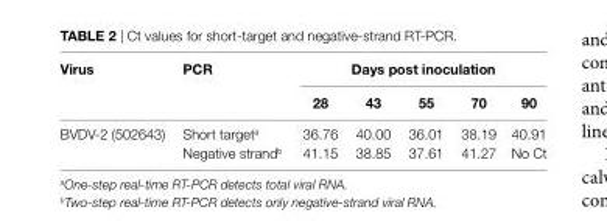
<table><thead><tr><td rowspan="2">Virus</td><td rowspan="2">Pcr</td><td colspan="5">Days post inoculation</td></tr><tr><td>28</td><td>43</td><td>55</td><td>70</td><td>90</td></tr></thead><tbody><tr><td rowspan="2">BVDV-2 (502643)</td><td>Short target<sup>a</sup></td><td>36.76</td><td>40.00</td><td>36.01</td><td>38.19</td><td>40.91</td></tr><tr><td>Negative strand<sup>b</sup></td><td>41.15</td><td>38.85</td><td>37.61</td><td>41.27</td><td>No Ct</td></tr></tbody></table>